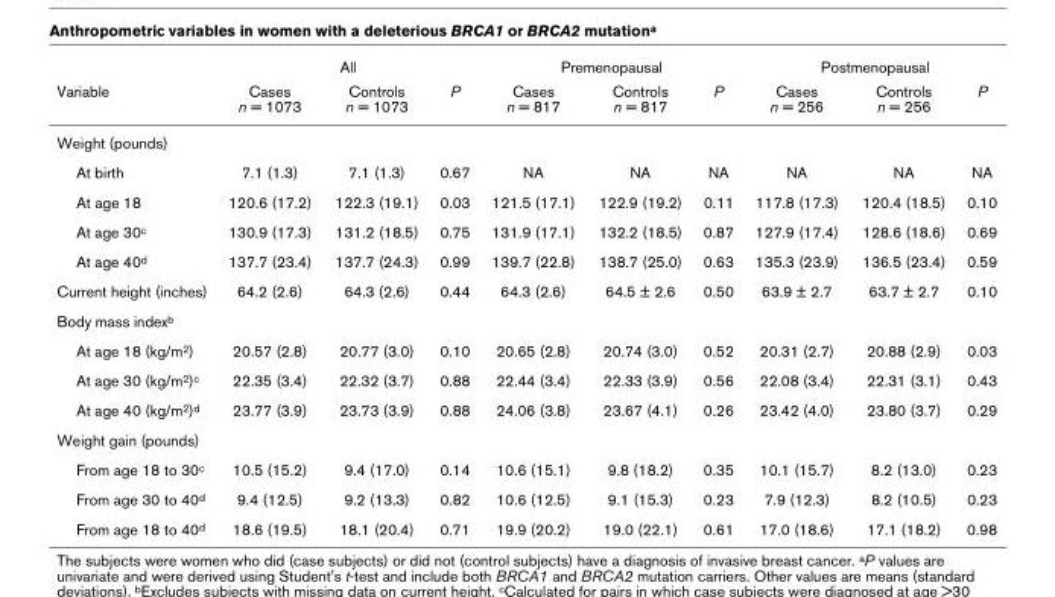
<table><thead><tr><td rowspan="2">Variable</td><td colspan="3">All</td><td colspan="3">Premenopausal</td><td colspan="3">Postmenopausal</td></tr><tr><td>Cases n = 1073</td><td>Controls n = 1073</td><td>P</td><td>Cases n = 817</td><td>Controls n = 817</td><td>P</td><td>Cases n = 256</td><td>Controls n = 256</td><td>P</td></tr></thead><tbody><tr><td colspan="10">Weight (pounds)</td></tr><tr><td>At birth</td><td>7.1 (1.3)</td><td>7.1 (1.3)</td><td>0.67</td><td>NA</td><td>NA</td><td>NA</td><td>NA</td><td>NA</td><td>NA</td></tr><tr><td>At age 18</td><td>120.6 (17.2)</td><td>122.3 (19.1)</td><td>0.03</td><td>121.5 (17.1)</td><td>122.9 (19.2)</td><td>0.11</td><td>117.8 (17.3)</td><td>120.4 (18.5)</td><td>0.10</td></tr><tr><td>At age 30c</td><td>130.9 (17.3)</td><td>131.2 (18.5)</td><td>0.75</td><td>131.9 (17.1)</td><td>132.2 (18.5)</td><td>0.87</td><td>127.9 (17.4)</td><td>128.6 (18.6)</td><td>0.69</td></tr><tr><td>At age 40d</td><td>137.7 (23.4)</td><td>137.7 (24.3)</td><td>0.99</td><td>139.7 (22.8)</td><td>138.7 (25.0)</td><td>0.63</td><td>135.3 (23.9)</td><td>136.5 (23.4)</td><td>0.59</td></tr><tr><td>Current height (inches)</td><td>64.2 (2.6)</td><td>64.3 (2.6)</td><td>0.44</td><td>64.3 (2.6)</td><td>64.5 ± 2.6</td><td>0.50</td><td>63.9 ± 2.7</td><td>63.7 ± 2.7</td><td>0.10</td></tr><tr><td colspan="10">Body mass indexb</td></tr><tr><td>At age 18 (kg/m2)</td><td>20.57 (2.8)</td><td>20.77 (3.0)</td><td>0.10</td><td>20.65 (2.8)</td><td>20.74 (3.0)</td><td>0.52</td><td>20.31 (2.7)</td><td>20.88 (2.9)</td><td>0.03</td></tr><tr><td>At age 30 (kg/m2)c</td><td>22.35 (3.4)</td><td>22.32 (3.7)</td><td>0.88</td><td>22.44 (3.4)</td><td>22.33 (3.9)</td><td>0.56</td><td>22.08 (3.4)</td><td>22.31 (3.1)</td><td>0.43</td></tr><tr><td>At age 40 (kg/m2)d</td><td>23.77 (3.9)</td><td>23.73 (3.9)</td><td>0.88</td><td>24.06 (3.8)</td><td>23.67 (4.1)</td><td>0.26</td><td>23.42 (4.0)</td><td>23.80 (3.7)</td><td>0.29</td></tr><tr><td colspan="10">Weight gain (pounds)</td></tr><tr><td>From age 18 to 30c</td><td>10.5 (15.2)</td><td>9.4 (17.0)</td><td>0.14</td><td>10.6 (15.1)</td><td>9.8 (18.2)</td><td>0.35</td><td>10.1 (15.7)</td><td>8.2 (13.0)</td><td>0.23</td></tr><tr><td>From age 30 to 40d</td><td>9.4 (12.5)</td><td>9.2 (13.3)</td><td>0.82</td><td>10.6 (12.5)</td><td>9.1 (15.3)</td><td>0.23</td><td>7.9 (12.3)</td><td>8.2 (10.5)</td><td>0.23</td></tr><tr><td>From age 18 to 40d</td><td>18.6 (19.5)</td><td>18.1 (20.4)</td><td>0.71</td><td>19.9 (20.2)</td><td>19.0 (22.1)</td><td>0.61</td><td>17.0 (18.6)</td><td>17.1 (18.2)</td><td>0.98</td></tr></tbody></table>